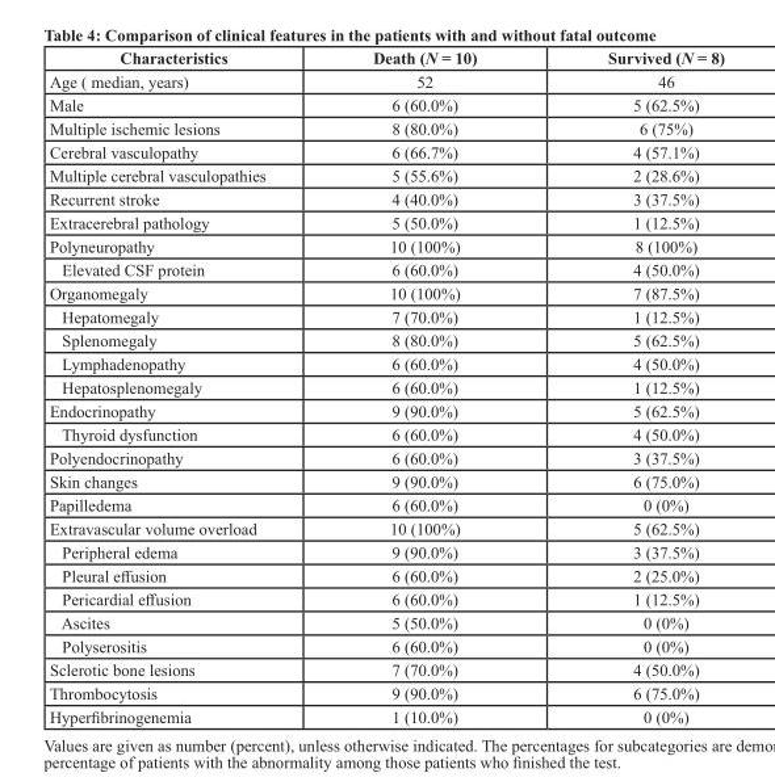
<table><thead><tr><td>Characteristics</td><td>Death (N = 10)</td><td>Survived (N = 8)</td></tr></thead><tbody><tr><td>Age ( median, years)</td><td>52</td><td>46</td></tr><tr><td>Male</td><td>6 (60.0%)</td><td>5 (62.5%)</td></tr><tr><td>Multiple ischemic lesions</td><td>8 (80.0%)</td><td>6 (75%)</td></tr><tr><td>Cerebral vasculopathy</td><td>6 (66.7%)</td><td>4 (57.1%)</td></tr><tr><td>Multiple cerebral vasculopathies</td><td>5 (55.6%)</td><td>2 (28.6%)</td></tr><tr><td>Recurrent stroke</td><td>4 (40.0%)</td><td>3 (37.5%)</td></tr><tr><td>Extracerebral pathology</td><td>5 (50.0%)</td><td>1 (12.5%)</td></tr><tr><td>Polyneuropathy</td><td>10 (100%)</td><td>8 (100%)</td></tr><tr><td>Elevated CSF protein</td><td>6 (60.0%)</td><td>4 (50.0%)</td></tr><tr><td>Organomegaly</td><td>10 (100%)</td><td>7 (87.5%)</td></tr><tr><td>Hepatomegaly</td><td>7 (70.0%)</td><td>1 (12.5%)</td></tr><tr><td>Splenomegaly</td><td>8 (80.0%)</td><td>5 (62.5%)</td></tr><tr><td>Lymphadenopathy</td><td>6 (60.0%)</td><td>4 (50.0%)</td></tr><tr><td>Hepatosplenomegaly</td><td>6 (60.0%)</td><td>1 (12.5%)</td></tr><tr><td>Endocrinopathy</td><td>9 (90.0%)</td><td>5 (62.5%)</td></tr><tr><td>Thyroid dysfunction</td><td>6 (60.0%)</td><td>4 (50.0%)</td></tr><tr><td>Polyendocrinopathy</td><td>6 (60.0%)</td><td>3 (37.5%)</td></tr><tr><td>Skin changes</td><td>9 (90.0%)</td><td>6 (75.0%)</td></tr><tr><td>Papilledema</td><td>6 (60.0%)</td><td>0 (0%)</td></tr><tr><td>Extravascular volume overload</td><td>10 (100%)</td><td>5 (62.5%)</td></tr><tr><td>Peripheral edema</td><td>9 (90.0%)</td><td>3 (37.5%)</td></tr><tr><td>Pleural effusion</td><td>6 (60.0%)</td><td>2 (25.0%)</td></tr><tr><td>Pericardial effusion</td><td>6 (60.0%)</td><td>1 (12.5%)</td></tr><tr><td>Ascites</td><td>5 (50.0%)</td><td>0 (0%)</td></tr><tr><td>Polyserositis</td><td>6 (60.0%)</td><td>0 (0%)</td></tr><tr><td>Sclerotic bone lesions</td><td>7 (70.0%)</td><td>4 (50.0%)</td></tr><tr><td>Thrombocytosis</td><td>9 (90.0%)</td><td>6 (75.0%)</td></tr><tr><td>Hyperfibrinogenemia</td><td>1 (10.0%)</td><td>0 (0%)</td></tr></tbody></table>